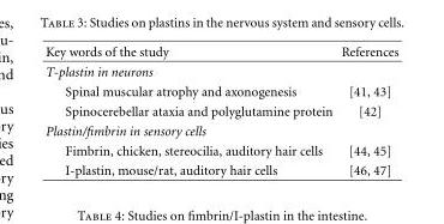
<table><thead><tr><td>Key words of the study</td><td>References</td></tr></thead><tbody><tr><td colspan="2">T-plastin in neurons</td></tr><tr><td>Spinal muscular atrophy and axonogenesis</td><td>[41, 43]</td></tr><tr><td>Spinocerebellar ataxia and polyglutamine protein</td><td>[42]</td></tr><tr><td colspan="2">Plastin/fimbrin in sensory cells</td></tr><tr><td>Fimbrin, chicken, stereocilia, auditory hair cells</td><td>[44, 45]</td></tr><tr><td>I-plastin, mouse/rat, auditory hair cells</td><td>[46, 47]</td></tr></tbody></table>